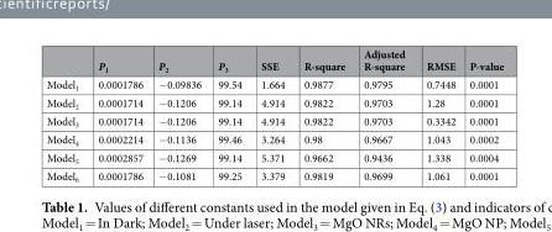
<table><thead><tr><td></td><td>P1</td><td>P2</td><td>P3</td><td>SSE</td><td>R-square</td><td>Adjusted R-square</td><td>RMSE</td><td>P-value</td></tr></thead><tbody><tr><td>Model1</td><td>0.0001786</td><td>−0.09836</td><td>99.54</td><td>1.664</td><td>0.9877</td><td>0.9795</td><td>0.7448</td><td>0.0001</td></tr><tr><td>Model2</td><td>0.0001714</td><td>−0.1206</td><td>99.14</td><td>4.914</td><td>0.9822</td><td>0.9703</td><td>1.28</td><td>0.0001</td></tr><tr><td>Model3</td><td>0.0001714</td><td>−0.1206</td><td>99.14</td><td>4.914</td><td>0.9822</td><td>0.9703</td><td>0.3342</td><td>0.0001</td></tr><tr><td>Model4</td><td>0.0002214</td><td>−0.1136</td><td>99.46</td><td>3.264</td><td>0.98</td><td>0.9667</td><td>1.043</td><td>0.0002</td></tr><tr><td>Model5</td><td>0.0002857</td><td>−0.1269</td><td>99.14</td><td>5.371</td><td>0.9662</td><td>0.9436</td><td>1.338</td><td>0.0004</td></tr><tr><td>Model6</td><td>0.0001786</td><td>−0.1081</td><td>99.25</td><td>3.379</td><td>0.9819</td><td>0.9699</td><td>1.061</td><td>0.0001</td></tr></tbody></table>